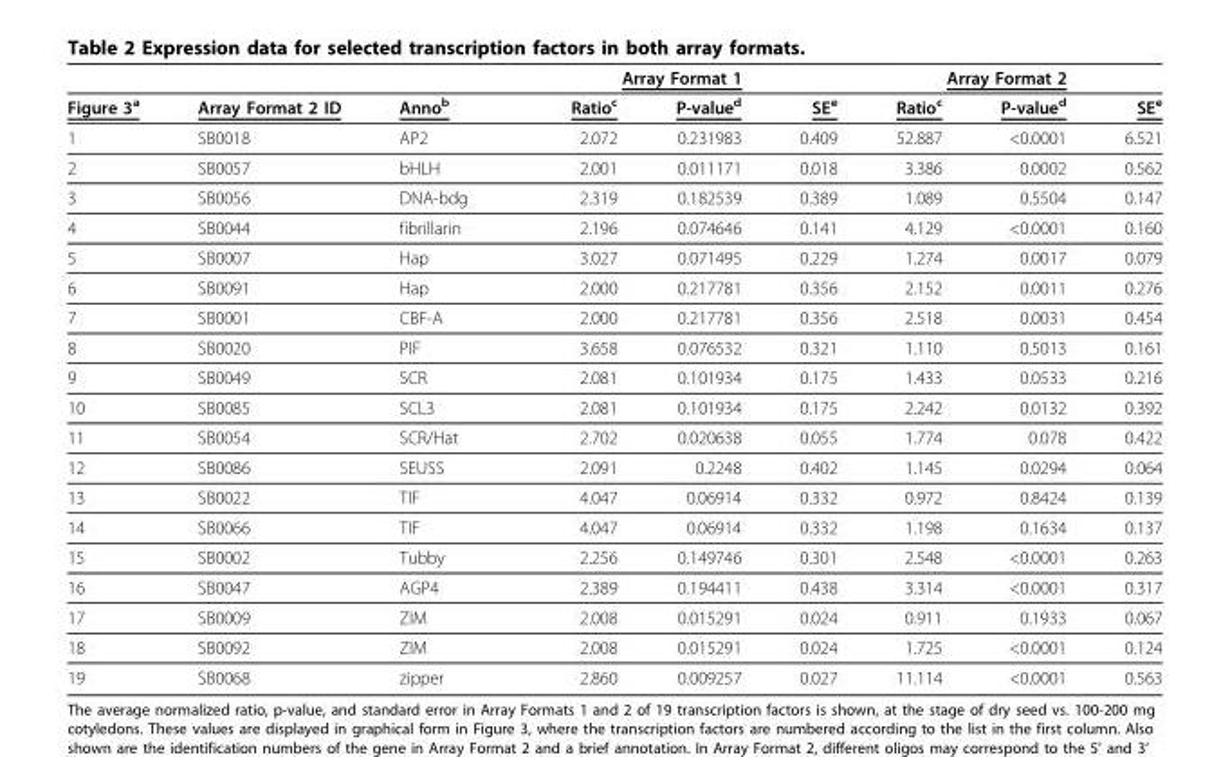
<table><thead><tr><td rowspan="2">Figure 3<sup>a</sup></td><td rowspan="2">Array Format 2 ID</td><td rowspan="2">Anno<sup>b</sup></td><td colspan="3">Array Format 1</td><td colspan="3">Array Format 2</td></tr><tr><td>Ratio<sup>c</sup></td><td>P-value<sup>d</sup></td><td>SE<sup>e</sup></td><td>Ratio<sup>c</sup></td><td>P-value<sup>d</sup></td><td>SE<sup>e</sup></td></tr></thead><tbody><tr><td>1</td><td>SB0018</td><td>AP2</td><td>2.072</td><td>0.231983</td><td>0.409</td><td>52.887</td><td>&lt;0.0001</td><td>6.521</td></tr><tr><td>2</td><td>SB0057</td><td>bHLH</td><td>2.001</td><td>0.011171</td><td>0.018</td><td>3.386</td><td>0.0002</td><td>0.562</td></tr><tr><td>3</td><td>SB0056</td><td>DNA-bdg</td><td>2.319</td><td>0.182539</td><td>0.389</td><td>1.089</td><td>0.5504</td><td>0.147</td></tr><tr><td>4</td><td>SB0044</td><td>fibrillarin</td><td>2.196</td><td>0.074646</td><td>0.141</td><td>4.129</td><td>&lt;0.0001</td><td>0.160</td></tr><tr><td>5</td><td>SB0007</td><td>Hap</td><td>3.027</td><td>0.071495</td><td>0.229</td><td>1.274</td><td>0.0017</td><td>0.079</td></tr><tr><td>6</td><td>SB0091</td><td>Hap</td><td>2.000</td><td>0.217781</td><td>0.356</td><td>2.152</td><td>0.0011</td><td>0.276</td></tr><tr><td>7</td><td>SB0001</td><td>CBF-A</td><td>2.000</td><td>0.217781</td><td>0.356</td><td>2.518</td><td>0.0031</td><td>0.454</td></tr><tr><td>8</td><td>SB0020</td><td>PIF</td><td>3.658</td><td>0.076532</td><td>0.321</td><td>1.110</td><td>0.5013</td><td>0.161</td></tr><tr><td>9</td><td>SB0049</td><td>SCR</td><td>2.081</td><td>0.101934</td><td>0.175</td><td>1.433</td><td>0.0533</td><td>0.216</td></tr><tr><td>10</td><td>SB0085</td><td>SCL3</td><td>2.081</td><td>0.101934</td><td>0.175</td><td>2.242</td><td>0.0132</td><td>0.392</td></tr><tr><td>11</td><td>SB0054</td><td>SCR/Hat</td><td>2.702</td><td>0.020638</td><td>0.055</td><td>1.774</td><td>0.078</td><td>0.422</td></tr><tr><td>12</td><td>SB0086</td><td>SEUSS</td><td>2.091</td><td>0.2248</td><td>0.402</td><td>1.145</td><td>0.0294</td><td>0.064</td></tr><tr><td>13</td><td>SB0022</td><td>TIF</td><td>4.047</td><td>0.06914</td><td>0.332</td><td>0.972</td><td>0.8424</td><td>0.139</td></tr><tr><td>14</td><td>SB0066</td><td>TIF</td><td>4.047</td><td>0.06914</td><td>0.332</td><td>1.198</td><td>0.1634</td><td>0.137</td></tr><tr><td>15</td><td>SB0002</td><td>Tubby</td><td>2.256</td><td>0.149746</td><td>0.301</td><td>2.548</td><td>&lt;0.0001</td><td>0.263</td></tr><tr><td>16</td><td>SB0047</td><td>AGP4</td><td>2.389</td><td>0.194411</td><td>0.438</td><td>3.314</td><td>&lt;0.0001</td><td>0.317</td></tr><tr><td>17</td><td>SB0009</td><td>ZIM</td><td>2.008</td><td>0.015291</td><td>0.024</td><td>0.911</td><td>0.1933</td><td>0.067</td></tr><tr><td>18</td><td>SB0092</td><td>ZIM</td><td>2.008</td><td>0.015291</td><td>0.024</td><td>1.725</td><td>&lt;0.0001</td><td>0.124</td></tr><tr><td>19</td><td>SB0068</td><td>zipper</td><td>2.860</td><td>0.009257</td><td>0.027</td><td>11.114</td><td>&lt;0.0001</td><td>0.563</td></tr></tbody></table>